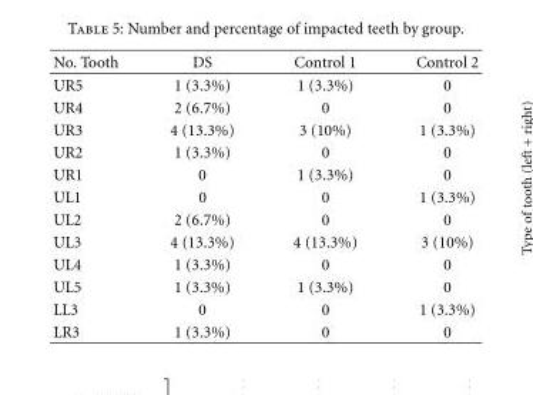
<table><thead><tr><td>No. Tooth</td><td>DS</td><td>Control 1</td><td>Control 2</td></tr></thead><tbody><tr><td>UR5</td><td>1 (3.3%)</td><td>1 (3.3%)</td><td>0</td></tr><tr><td>UR4</td><td>2 (6.7%)</td><td>0</td><td>0</td></tr><tr><td>UR3</td><td>4 (13.3%)</td><td>3 (10%)</td><td>1 (3.3%)</td></tr><tr><td>UR2</td><td>1 (3.3%)</td><td>0</td><td>0</td></tr><tr><td>UR1</td><td>0</td><td>1 (3.3%)</td><td>0</td></tr><tr><td>UL1</td><td>0</td><td>0</td><td>1 (3.3%)</td></tr><tr><td>UL2</td><td>2 (6.7%)</td><td>0</td><td>0</td></tr><tr><td>UL3</td><td>4 (13.3%)</td><td>4 (13.3%)</td><td>3 (10%)</td></tr><tr><td>UL4</td><td>1 (3.3%)</td><td>0</td><td>0</td></tr><tr><td>UL5</td><td>1 (3.3%)</td><td>1 (3.3%)</td><td>0</td></tr><tr><td>LL3</td><td>0</td><td>0</td><td>1 (3.3%)</td></tr><tr><td>LR3</td><td>1 (3.3%)</td><td>0</td><td>0</td></tr></tbody></table>